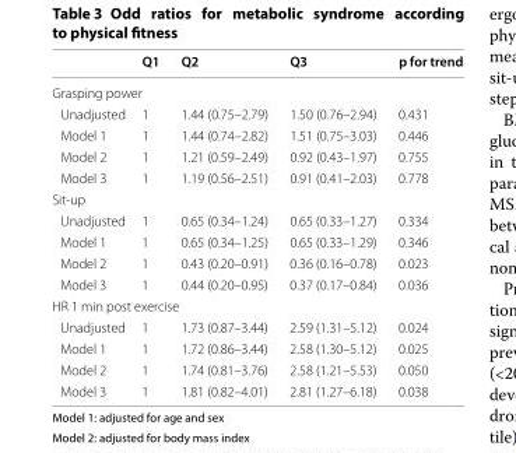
<table><thead><tr><td></td><td>Q1</td><td>Q2</td><td>Q3</td><td>p for trend</td></tr></thead><tbody><tr><td colspan="5">Grasping power</td></tr><tr><td>Unadjusted</td><td>1</td><td>1.44 (0.75–2.79)</td><td>1.50 (0.76–2.94)</td><td>0.431</td></tr><tr><td>Model 1</td><td>1</td><td>1.44 (0.74–2.82)</td><td>1.51 (0.75–3.03)</td><td>0.446</td></tr><tr><td>Model 2</td><td>1</td><td>1.21 (0.59–2.49)</td><td>0.92 (0.43–1.97)</td><td>0.755</td></tr><tr><td>Model 3</td><td>1</td><td>1.19 (0.56–2.51)</td><td>0.91 (0.41–2.03)</td><td>0.778</td></tr><tr><td colspan="5">Sit‑up</td></tr><tr><td>Unadjusted</td><td>1</td><td>0.65 (0.34–1.24)</td><td>0.65 (0.33–1.27)</td><td>0.334</td></tr><tr><td>Model 1</td><td>1</td><td>0.65 (0.34–1.25)</td><td>0.65 (0.33–1.29)</td><td>0.346</td></tr><tr><td>Model 2</td><td>1</td><td>0.43 (0.20–0.91)</td><td>0.36 (0.16–0.78)</td><td>0.023</td></tr><tr><td>Model 3</td><td>1</td><td>0.44 (0.20–0.95)</td><td>0.37 (0.17–0.84)</td><td>0.036</td></tr><tr><td colspan="5">HR 1 min post exercise</td></tr><tr><td>Unadjusted</td><td>1</td><td>1.73 (0.87–3.44)</td><td>2.59 (1.31–5.12)</td><td>0.024</td></tr><tr><td>Model 1</td><td>1</td><td>1.72 (0.86–3.44)</td><td>2.58 (1.30–5.12)</td><td>0.025</td></tr><tr><td>Model 2</td><td>1</td><td>1.74 (0.81–3.76)</td><td>2.58 (1.21–5.53)</td><td>0.050</td></tr><tr><td>Model 3</td><td>1</td><td>1.81 (0.82–4.01)</td><td>2.81 (1.27–6.18)</td><td>0.038</td></tr></tbody></table>